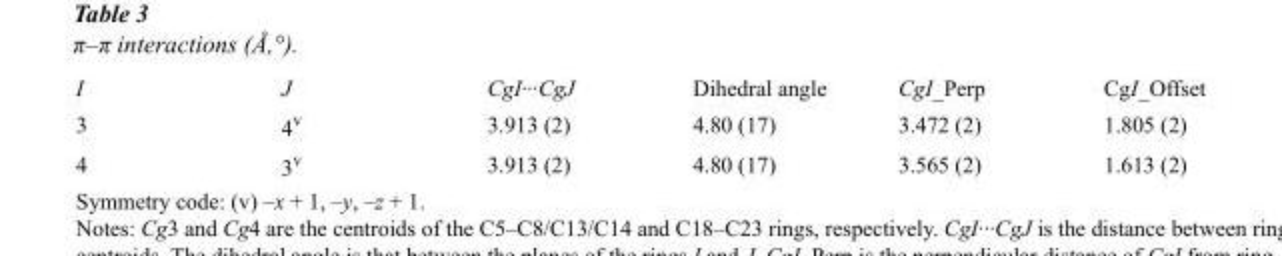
<table><tbody><tr><td>I</td><td>J</td><td>CgI···CgJ</td><td>Dihedral angle</td><td>CgI_Perp</td><td>CgI_Offset</td></tr><tr><td>3</td><td>4<sup>v</sup></td><td>3.913 (2)</td><td>4.80 (17)</td><td>3.472 (2)</td><td>1.805 (2)</td></tr><tr><td>4</td><td>3<sup>v</sup></td><td>3.913 (2)</td><td>4.80 (17)</td><td>3.565 (2)</td><td>1.613 (2)</td></tr></tbody></table>